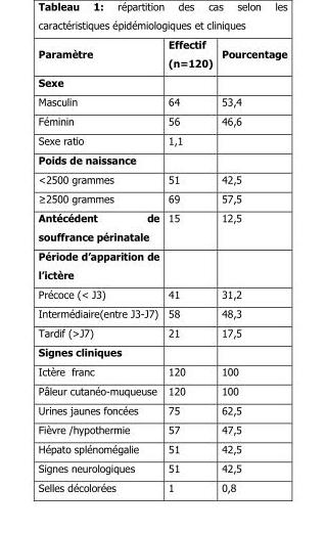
<table><thead><tr><td>Paramètre</td><td>Effectif (n=120)</td><td>Pourcentage</td></tr></thead><tbody><tr><td colspan="3">Sexe</td></tr><tr><td>Masculin</td><td>64</td><td>53,4</td></tr><tr><td>Féminin</td><td>56</td><td>46,6</td></tr><tr><td>Sexe ratio</td><td>1,1</td><td></td></tr><tr><td colspan="3">Poids de naissance</td></tr><tr><td>&lt;2500 grammes</td><td>51</td><td>42,5</td></tr><tr><td>≥2500 grammes</td><td>69</td><td>57,5</td></tr><tr><td>Antécédent de souffrance périnatale</td><td>15</td><td>12,5</td></tr><tr><td colspan="3">Période d’apparition de l’ictère</td></tr><tr><td>Précoce (&lt; J3)</td><td>41</td><td>31,2</td></tr><tr><td>Intermédiaire(entre J3-J7)</td><td>58</td><td>48,3</td></tr><tr><td>Tardif (&gt;J7)</td><td>21</td><td>17,5</td></tr><tr><td colspan="3">Signes cliniques</td></tr><tr><td>Ictère franc</td><td>120</td><td>100</td></tr><tr><td>Pâleur cutanéo-muqueuse</td><td>120</td><td>100</td></tr><tr><td>Urines jaunes foncées</td><td>75</td><td>62,5</td></tr><tr><td>Fièvre /hypothermie</td><td>57</td><td>47,5</td></tr><tr><td>Hépato splénomégalie</td><td>51</td><td>42,5</td></tr><tr><td>Signes neurologiques</td><td>51</td><td>42,5</td></tr><tr><td>Selles décolorées</td><td>1</td><td>0,8</td></tr></tbody></table>